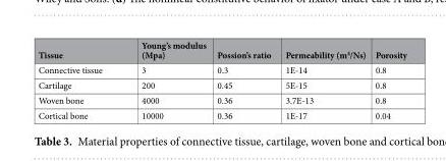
<table><thead><tr><td>Tissue</td><td>Young’s modulus (Mpa)</td><td>Possion’s ratio</td><td>Permeability (m<sup>4</sup>/Ns)</td><td>Porosity</td></tr></thead><tbody><tr><td>Connective tissue</td><td>3</td><td>0.3</td><td>1E-14</td><td>0.8</td></tr><tr><td>Cartilage</td><td>200</td><td>0.45</td><td>5E-15</td><td>0.8</td></tr><tr><td>Woven bone</td><td>4000</td><td>0.36</td><td>3.7E-13</td><td>0.8</td></tr><tr><td>Cortical bone</td><td>10000</td><td>0.36</td><td>1E-17</td><td>0.04</td></tr></tbody></table>